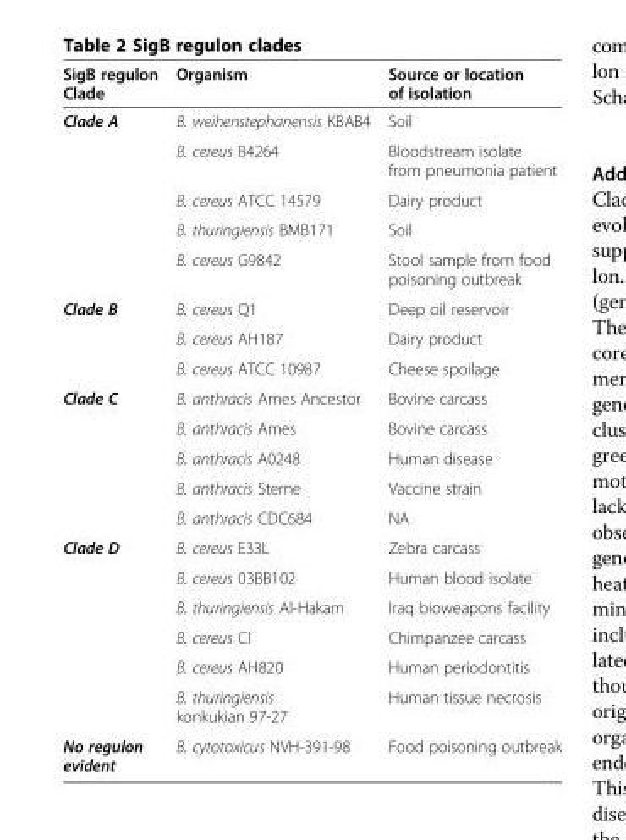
<table><thead><tr><td>SigB regulon Clade</td><td>Organism</td><td>Source or location of isolation</td></tr></thead><tbody><tr><td rowspan="5">Clade A</td><td>B. weihenstephanensis KBAB4</td><td>Soil</td></tr><tr><td>B. cereus B4264</td><td>Bloodstream isolate from pneumonia patient</td></tr><tr><td>B. cereus ATCC 14579</td><td>Dairy product</td></tr><tr><td>B. thuringiensis BMB171</td><td>Soil</td></tr><tr><td>B. cereus G9842</td><td>Stool sample from food poisoning outbreak</td></tr><tr><td rowspan="3">Clade B</td><td>B. cereus Q1</td><td>Deep oil reservoir</td></tr><tr><td>B. cereus AH187</td><td>Dairy product</td></tr><tr><td>B. cereus ATCC 10987</td><td>Cheese spoilage</td></tr><tr><td rowspan="5">Clade C</td><td>B. anthracis Ames Ancestor</td><td>Bovine carcass</td></tr><tr><td>B. anthracis Ames</td><td>Bovine carcass</td></tr><tr><td>B. anthracis A0248</td><td>Human disease</td></tr><tr><td>B. anthracis Sterne</td><td>Vaccine strain</td></tr><tr><td>B. anthracis CDC684</td><td>NA</td></tr><tr><td rowspan="6">Clade D</td><td>B. cereus E33L</td><td>Zebra carcass</td></tr><tr><td>B. cereus 03BB102</td><td>Human blood isolate</td></tr><tr><td>B. thuringiensis Al-Hakam</td><td>Iraq bioweapons facility</td></tr><tr><td>B. cereus Cl</td><td>Chimpanzee carcass</td></tr><tr><td>B. cereus AH820</td><td>Human periodontitis</td></tr><tr><td>B. thuringiensis konkukian 97-27</td><td>Human tissue necrosis</td></tr><tr><td>No regulon evident</td><td>B. cytotoxicus NVH-391-98</td><td>Food poisoning outbreak</td></tr></tbody></table>